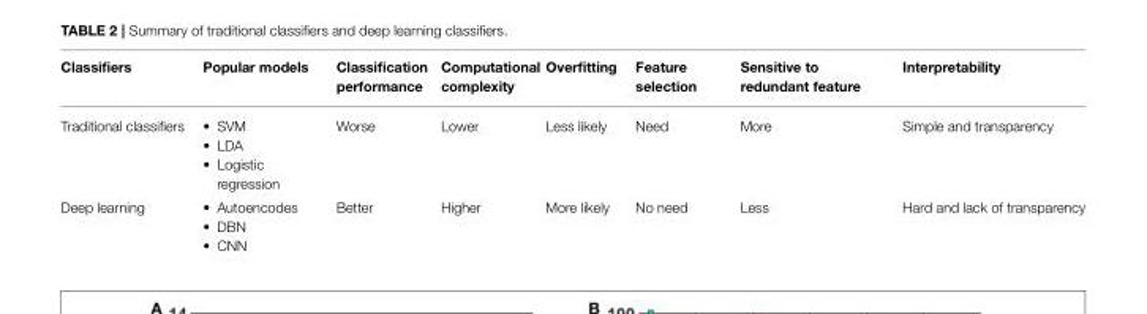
<table><thead><tr><td>Classifiers</td><td>Popular models</td><td>Classification performance</td><td>Computational complexity</td><td>Overfitting</td><td>Feature selection</td><td>Sensitive to redundant feature</td><td>Interpretability</td></tr></thead><tbody><tr><td>Traditional classifiers</td><td>• SVM • LDA • Logistic regression</td><td>Worse</td><td>Lower</td><td>Less likely</td><td>Need</td><td>More</td><td>Simple and transparency</td></tr><tr><td>Deep learning</td><td>• Autoencodes • DBN • CNN</td><td>Better</td><td>Higher</td><td>More likely</td><td>No need</td><td>Less</td><td>Hard and lack of transparency</td></tr></tbody></table>